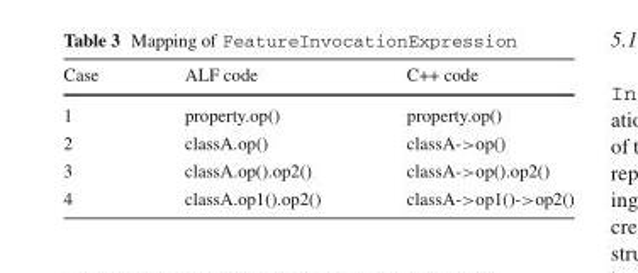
<table><thead><tr><td>Case</td><td>ALF code</td><td>C++ code</td></tr></thead><tbody><tr><td>1</td><td>property.op()</td><td>property.op()</td></tr><tr><td>2</td><td>classA.op()</td><td>classA-&gt;op()</td></tr><tr><td>3</td><td>classA.op().op2()</td><td>classA-&gt;op().op2()</td></tr><tr><td>4</td><td>classA.op1().op2()</td><td>classA-&gt;op1()-&gt;op2()</td></tr></tbody></table>